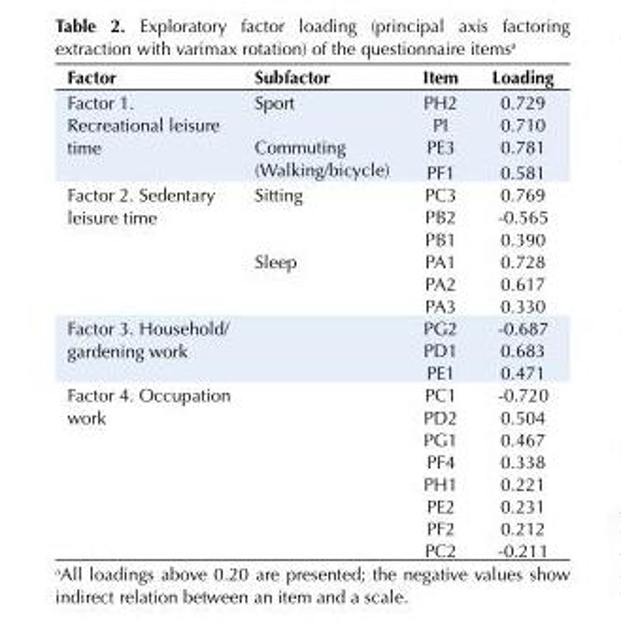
<table><tbody><tr><td>Factor</td><td>Subfactor</td><td>Item</td><td>Loading</td></tr><tr><td rowspan="4">Factor 1. Recreational leisure time</td><td rowspan="2">Sport</td><td>PH2</td><td>0.729</td></tr><tr><td>PI</td><td>0.710</td></tr><tr><td rowspan="2">Commuting (Walking/bicycle)</td><td>PE3</td><td>0.781</td></tr><tr><td>PF1</td><td>0.581</td></tr><tr><td rowspan="6">Factor 2. Sedentary leisure time</td><td rowspan="3">Sitting</td><td>PC3</td><td>0.769</td></tr><tr><td>PB2</td><td>-0.565</td></tr><tr><td>PB1</td><td>0.390</td></tr><tr><td rowspan="3">Sleep</td><td>PA1</td><td>0.728</td></tr><tr><td>PA2</td><td>0.617</td></tr><tr><td>PA3</td><td>0.330</td></tr><tr><td rowspan="3">Factor 3. Household/ gardening work</td><td rowspan="3"></td><td>PG2</td><td>-0.687</td></tr><tr><td>PD1</td><td>0.683</td></tr><tr><td>PE1</td><td>0.471</td></tr><tr><td rowspan="8">Factor 4. Occupation work</td><td rowspan="8"></td><td>PC1</td><td>-0.720</td></tr><tr><td>PD2</td><td>0.504</td></tr><tr><td>PG1</td><td>0.467</td></tr><tr><td>PF4</td><td>0.338</td></tr><tr><td>PH1</td><td>0.221</td></tr><tr><td>PE2</td><td>0.231</td></tr><tr><td>PF2</td><td>0.212</td></tr><tr><td>PC2</td><td>-0.211</td></tr></tbody></table>